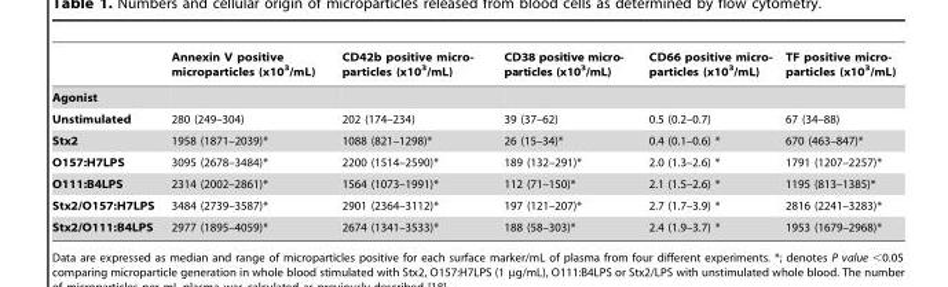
<table><thead><tr><td></td><td>Annexin V positive microparticles (x10<sup>3</sup>/mL)</td><td>CD42b positive micro- particles (x103/mL)</td><td>CD38 positive micro- particles (x103/mL)</td><td>CD66 positive micro- particles (x103/mL)</td><td>TF positive micro- particles (x103/mL)</td></tr></thead><tbody><tr><td colspan="6">Agonist</td></tr><tr><td>Unstimulated</td><td>280 (249–304)</td><td>202 (174–234)</td><td>39 (37–62)</td><td>0.5 (0.2–0.7)</td><td>67 (34–88)</td></tr><tr><td>Stx2</td><td>1958 (1871–2039)*</td><td>1088 (821–1298)*</td><td>26 (15–34)*</td><td>0.4 (0.1–0.6) *</td><td>670 (463–847)*</td></tr><tr><td>O157:H7LPS</td><td>3095 (2678–3484)*</td><td>2200 (1514–2590)*</td><td>189 (132–291)*</td><td>2.0 (1.3–2.6) *</td><td>1791 (1207–2257)*</td></tr><tr><td>O111:B4LPS</td><td>2314 (2002–2861)*</td><td>1564 (1073–1991)*</td><td>112 (71–150)*</td><td>2.1 (1.5–2.6) *</td><td>1195 (813–1385)*</td></tr><tr><td>Stx2/O157:H7LPS</td><td>3484 (2739–3587)*</td><td>2901 (2364–3112)*</td><td>197 (121–207)*</td><td>2.7 (1.7–3.9) *</td><td>2816 (2241–3283)*</td></tr><tr><td>Stx2/O111:B4LPS</td><td>2977 (1895–4059)*</td><td>2674 (1341–3533)*</td><td>188 (58–303)*</td><td>2.4 (1.9–3.7) *</td><td>1953 (1679–2968)*</td></tr></tbody></table>